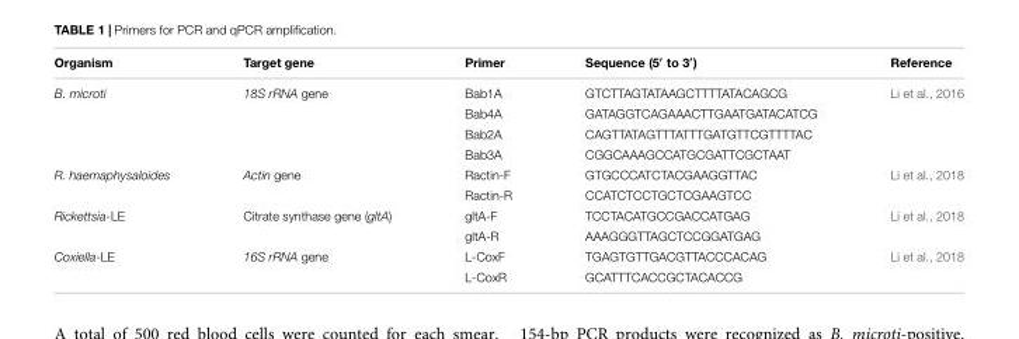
<table><thead><tr><td>Organism</td><td>Target gene</td><td>Primer</td><td>Sequence (5′ to 3′)</td><td>Reference</td></tr></thead><tbody><tr><td rowspan="4">B. microti</td><td>18S rRNA gene</td><td>Bab1A</td><td>GTCTTAGTATAAGCTTTTATACAGCG</td><td>Li et al., 2016</td></tr><tr><td></td><td>Bab4A</td><td>GATAGGTCAGAAACTTGAATGATACATCG</td><td></td></tr><tr><td></td><td>Bab2A</td><td>CAGTTATAGTTTATTTGATGTTCGTTTTAC</td><td></td></tr><tr><td></td><td>Bab3A</td><td>CGGCAAAGCCATGCGATTCGCTAAT</td><td></td></tr><tr><td rowspan="2">R. haemaphysaloides</td><td>Actin gene</td><td>Ractin-F</td><td>GTGCCCATCTACGAAGGTTAC</td><td>Li et al., 2018</td></tr><tr><td></td><td>Ractin-R</td><td>CCATCTCCTGCTCGAAGTCC</td><td></td></tr><tr><td rowspan="2">Rickettsia-LE</td><td>Citrate synthase gene (gltA)</td><td>gltA-F</td><td>TCCTACATGCCGACCATGAG</td><td>Li et al., 2018</td></tr><tr><td></td><td>gltA-R</td><td>AAAGGGTTAGCTCCGGATGAG</td><td></td></tr><tr><td rowspan="2">Coxiella-LE</td><td>16S rRNA gene</td><td>L-CoxF</td><td>TGAGTGTTGACGTTACCCACAG</td><td>Li et al., 2018</td></tr><tr><td></td><td>L-CoxR</td><td>GCATTTCACCGCTACACCG</td><td></td></tr></tbody></table>